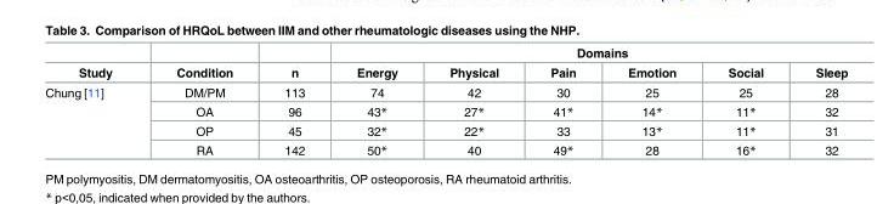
<table><thead><tr><td rowspan="2">Study</td><td rowspan="2">Condition</td><td rowspan="2">n</td><td colspan="6">Domains</td></tr><tr><td>Energy</td><td>Physical</td><td>Pain</td><td>Emotion</td><td>Social</td><td>Sleep</td></tr></thead><tbody><tr><td rowspan="4">Chung [11]</td><td>DM/PM</td><td>113</td><td>74</td><td>42</td><td>30</td><td>25</td><td>25</td><td>28</td></tr><tr><td>OA</td><td>96</td><td>43*</td><td>27*</td><td>41*</td><td>14*</td><td>11*</td><td>32</td></tr><tr><td>OP</td><td>45</td><td>32*</td><td>22*</td><td>33</td><td>13*</td><td>11*</td><td>31</td></tr><tr><td>RA</td><td>142</td><td>50*</td><td>40</td><td>49*</td><td>28</td><td>16*</td><td>32</td></tr></tbody></table>